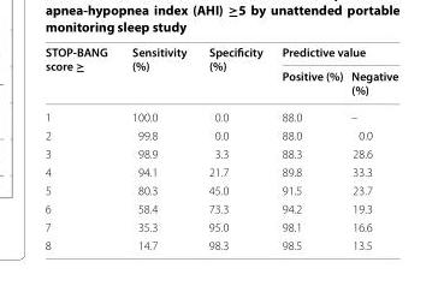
<table><thead><tr><td rowspan="2">STOP-BANG score ≥</td><td rowspan="2">Sensitivity (%)</td><td rowspan="2">Specificity (%)</td><td colspan="2">Predictive value</td></tr><tr><td>Positive (%)</td><td>Negative (%)</td></tr></thead><tbody><tr><td>1</td><td>100.0</td><td>0.0</td><td>88.0</td><td>–</td></tr><tr><td>2</td><td>99.8</td><td>0.0</td><td>88.0</td><td>0.0</td></tr><tr><td>3</td><td>98.9</td><td>3.3</td><td>88.3</td><td>28.6</td></tr><tr><td>4</td><td>94.1</td><td>21.7</td><td>89.8</td><td>33.3</td></tr><tr><td>5</td><td>80.3</td><td>45.0</td><td>91.5</td><td>23.7</td></tr><tr><td>6</td><td>58.4</td><td>73.3</td><td>94.2</td><td>19.3</td></tr><tr><td>7</td><td>35.3</td><td>95.0</td><td>98.1</td><td>16.6</td></tr><tr><td>8</td><td>14.7</td><td>98.3</td><td>98.5</td><td>13.5</td></tr></tbody></table>